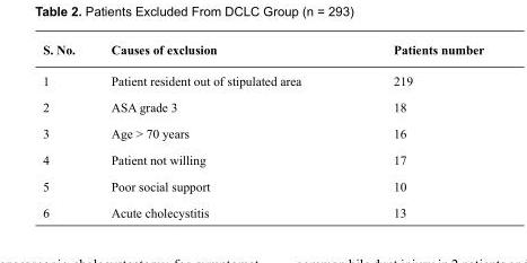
<table><thead><tr><td>S. No.</td><td>Causes of exclusion</td><td>Patients number</td></tr></thead><tbody><tr><td>1</td><td>Patient resident out of stipulated area</td><td>219</td></tr><tr><td>2</td><td>ASA grade 3</td><td>18</td></tr><tr><td>3</td><td>Age &gt; 70 years</td><td>16</td></tr><tr><td>4</td><td>Patient not willing</td><td>17</td></tr><tr><td>5</td><td>Poor social support</td><td>10</td></tr><tr><td>6</td><td>Acute cholecystitis</td><td>13</td></tr></tbody></table>